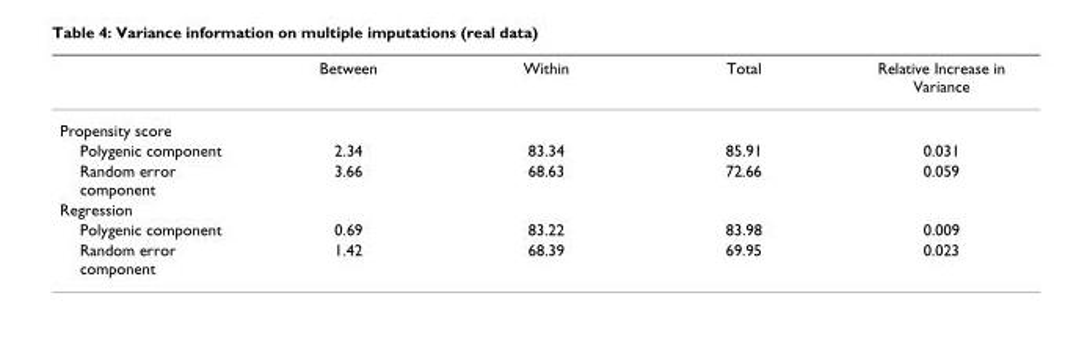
<table><thead><tr><td></td><td>Between</td><td>Within</td><td>Total</td><td>Relative Increase in Variance</td></tr></thead><tbody><tr><td colspan="5">Propensity score</td></tr><tr><td>Polygenic component</td><td>2.34</td><td>83.34</td><td>85.91</td><td>0.031</td></tr><tr><td>Random error component</td><td>3.66</td><td>68.63</td><td>72.66</td><td>0.059</td></tr><tr><td colspan="5">Regression</td></tr><tr><td>Polygenic component</td><td>0.69</td><td>83.22</td><td>83.98</td><td>0.009</td></tr><tr><td>Random error component</td><td>1.42</td><td>68.39</td><td>69.95</td><td>0.023</td></tr></tbody></table>